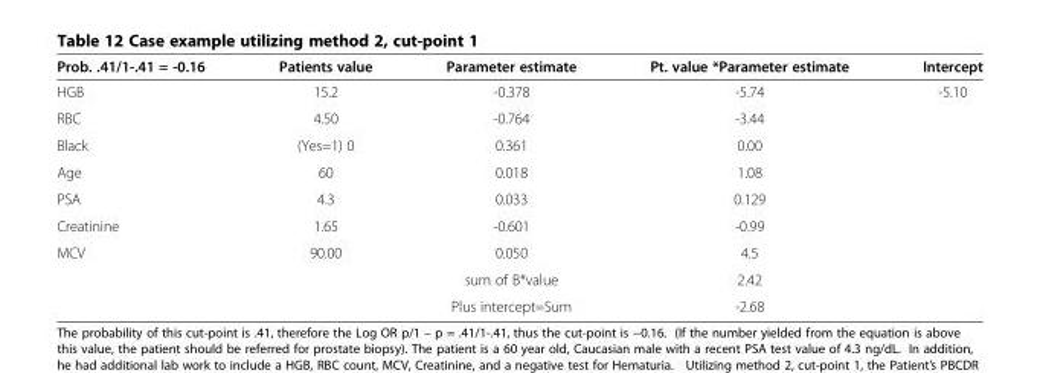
<table><thead><tr><td>Prob. .41/1-.41 = -0.16</td><td>Patients value</td><td>Parameter estimate</td><td>Pt. value *Parameter estimate</td><td>Intercept</td></tr></thead><tbody><tr><td>HGB</td><td>15.2</td><td>-0.378</td><td>-5.74</td><td>-5.10</td></tr><tr><td>RBC</td><td>4.50</td><td>-0.764</td><td>-3.44</td><td></td></tr><tr><td>Black</td><td>(Yes=1) 0</td><td>0.361</td><td>0.00</td><td></td></tr><tr><td>Age</td><td>60</td><td>0.018</td><td>1.08</td><td></td></tr><tr><td>PSA</td><td>4.3</td><td>0.033</td><td>0.129</td><td></td></tr><tr><td>Creatinine</td><td>1.65</td><td>-0.601</td><td>-0.99</td><td></td></tr><tr><td rowspan="3">MCV</td><td>90.00</td><td>0.050</td><td>4.5</td><td></td></tr><tr><td></td><td>sum of B*value</td><td>2.42</td><td></td></tr><tr><td></td><td>Plus intercept=Sum</td><td>-2.68</td><td></td></tr></tbody></table>